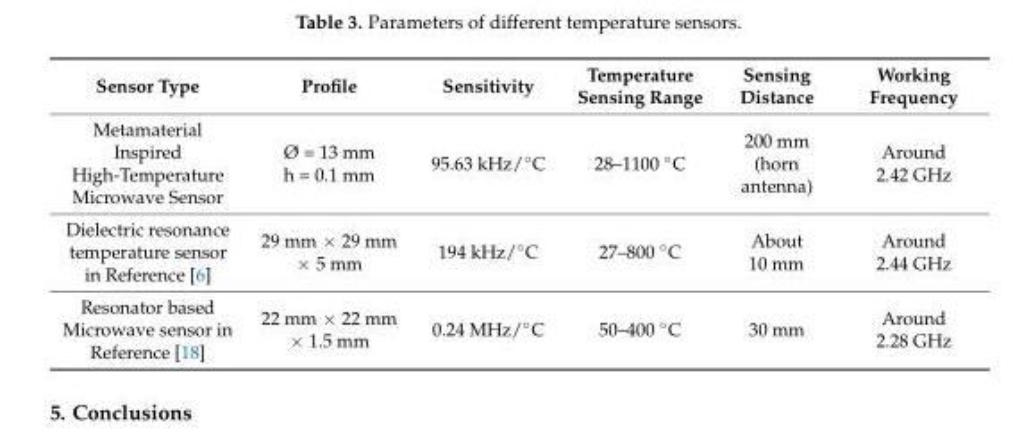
<table><thead><tr><td>Sensor Type</td><td>Profile</td><td>Sensitivity</td><td>Temperature Sensing Range</td><td>Sensing Distance</td><td>Working Frequency</td></tr></thead><tbody><tr><td>Metamaterial Inspired High-Temperature Microwave Sensor</td><td>Ø = 13 mm h = 0.1 mm</td><td>95.63 kHz/◦C</td><td>28–1100 ◦C</td><td>200 mm (horn antenna)</td><td>Around 2.42 GHz</td></tr><tr><td>Dielectric resonance temperature sensor in Reference [6]</td><td>29 mm × 29 mm × 5 mm</td><td>194 kHz/◦C</td><td>27–800 ◦C</td><td>About 10 mm</td><td>Around 2.44 GHz</td></tr><tr><td>Resonator based Microwave sensor in Reference [18]</td><td>22 mm × 22 mm × 1.5 mm</td><td>0.24 MHz/◦C</td><td>50–400 ◦C</td><td>30 mm</td><td>Around 2.28 GHz</td></tr></tbody></table>